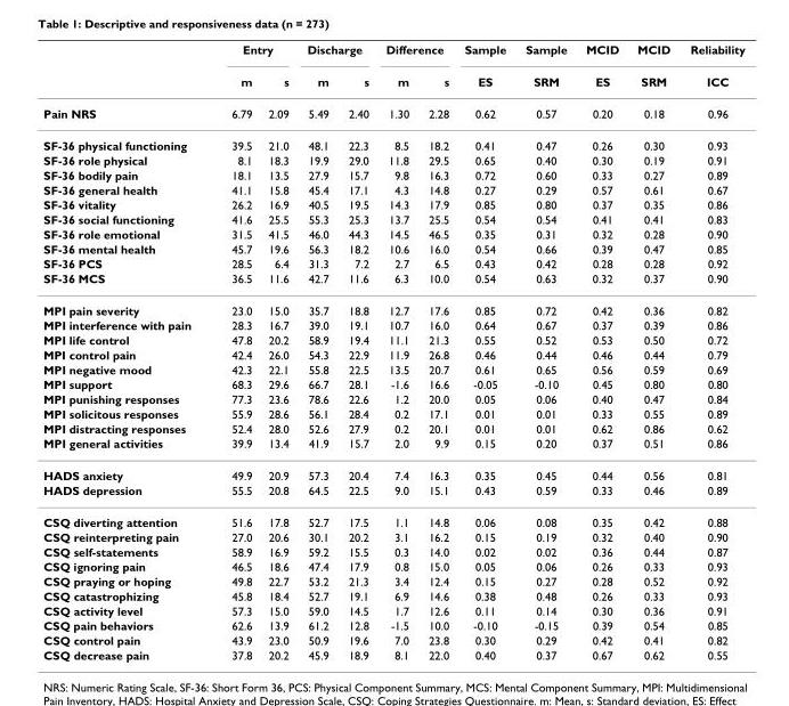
<table><thead><tr><td rowspan="2"></td><td colspan="2">Entry</td><td colspan="2">Discharge</td><td colspan="2">Difference</td><td rowspan="2">Sample ES</td><td rowspan="2">Sample SRM</td><td rowspan="2">MCID ES</td><td rowspan="2">MCID SRM</td><td rowspan="2">Reliability ICC</td></tr><tr><td>m</td><td>s</td><td>m</td><td>s</td><td>m</td><td>s</td></tr></thead><tbody><tr><td>Pain NRS</td><td>6.79</td><td>2.09</td><td>5.49</td><td>2.40</td><td>1.30</td><td>2.28</td><td>0.62</td><td>0.57</td><td>0.20</td><td>0.18</td><td>0.96</td></tr><tr><td>SF-36 physical functioning</td><td>39.5</td><td>21.0</td><td>48.1</td><td>22.3</td><td>8.5</td><td>18.2</td><td>0.41</td><td>0.47</td><td>0.26</td><td>0.30</td><td>0.93</td></tr><tr><td>SF-36 role physical</td><td>8.1</td><td>18.3</td><td>19.9</td><td>29.0</td><td>11.8</td><td>29.5</td><td>0.65</td><td>0.40</td><td>0.30</td><td>0.19</td><td>0.91</td></tr><tr><td>SF-36 bodily pain</td><td>18.1</td><td>13.5</td><td>27.9</td><td>15.7</td><td>9.8</td><td>16.3</td><td>0.72</td><td>0.60</td><td>0.33</td><td>0.27</td><td>0.89</td></tr><tr><td>SF-36 general health</td><td>41.1</td><td>15.8</td><td>45.4</td><td>17.1</td><td>4.3</td><td>14.8</td><td>0.27</td><td>0.29</td><td>0.57</td><td>0.61</td><td>0.67</td></tr><tr><td>SF-36 vitality</td><td>26.2</td><td>16.9</td><td>40.5</td><td>19.5</td><td>14.3</td><td>17.9</td><td>0.85</td><td>0.80</td><td>0.37</td><td>0.35</td><td>0.86</td></tr><tr><td>SF-36 social functioning</td><td>41.6</td><td>25.5</td><td>55.3</td><td>25.3</td><td>13.7</td><td>25.5</td><td>0.54</td><td>0.54</td><td>0.41</td><td>0.41</td><td>0.83</td></tr><tr><td>SF-36 role emotional</td><td>31.5</td><td>41.5</td><td>46.0</td><td>44.3</td><td>14.5</td><td>46.5</td><td>0.35</td><td>0.31</td><td>0.32</td><td>0.28</td><td>0.90</td></tr><tr><td>SF-36 mental health</td><td>45.7</td><td>19.6</td><td>56.3</td><td>18.2</td><td>10.6</td><td>16.0</td><td>0.54</td><td>0.66</td><td>0.39</td><td>0.47</td><td>0.85</td></tr><tr><td>SF-36 PCS</td><td>28.5</td><td>6.4</td><td>31.3</td><td>7.2</td><td>2.7</td><td>6.5</td><td>0.43</td><td>0.42</td><td>0.28</td><td>0.28</td><td>0.92</td></tr><tr><td>SF-36 MCS</td><td>36.5</td><td>11.6</td><td>42.7</td><td>11.6</td><td>6.3</td><td>10.0</td><td>0.54</td><td>0.63</td><td>0.32</td><td>0.37</td><td>0.90</td></tr><tr><td>MPI pain severity</td><td>23.0</td><td>15.0</td><td>35.7</td><td>18.8</td><td>12.7</td><td>17.6</td><td>0.85</td><td>0.72</td><td>0.42</td><td>0.36</td><td>0.82</td></tr><tr><td>MPI interference with pain</td><td>28.3</td><td>16.7</td><td>39.0</td><td>19.1</td><td>10.7</td><td>16.0</td><td>0.64</td><td>0.67</td><td>0.37</td><td>0.39</td><td>0.86</td></tr><tr><td>MPI life control</td><td>47.8</td><td>20.2</td><td>58.9</td><td>19.4</td><td>11.1</td><td>21.3</td><td>0.55</td><td>0.52</td><td>0.53</td><td>0.50</td><td>0.72</td></tr><tr><td>MPI control pain</td><td>42.4</td><td>26.0</td><td>54.3</td><td>22.9</td><td>11.9</td><td>26.8</td><td>0.46</td><td>0.44</td><td>0.46</td><td>0.44</td><td>0.79</td></tr><tr><td>MPI negative mood</td><td>42.3</td><td>22.1</td><td>55.8</td><td>22.5</td><td>13.5</td><td>20.7</td><td>0.61</td><td>0.65</td><td>0.56</td><td>0.59</td><td>0.69</td></tr><tr><td>MPI support</td><td>68.3</td><td>29.6</td><td>66.7</td><td>28.1</td><td>-1.6</td><td>16.6</td><td>-0.05</td><td>-0.10</td><td>0.45</td><td>0.80</td><td>0.80</td></tr><tr><td>MPI punishing responses</td><td>77.3</td><td>23.6</td><td>78.6</td><td>22.6</td><td>1.2</td><td>20.0</td><td>0.05</td><td>0.06</td><td>0.40</td><td>0.47</td><td>0.84</td></tr><tr><td>MPI solicitous responses</td><td>55.9</td><td>28.6</td><td>56.1</td><td>28.4</td><td>0.2</td><td>17.1</td><td>0.01</td><td>0.01</td><td>0.33</td><td>0.55</td><td>0.89</td></tr><tr><td>MPI distracting responses</td><td>52.4</td><td>28.0</td><td>52.6</td><td>27.9</td><td>0.2</td><td>20.1</td><td>0.01</td><td>0.01</td><td>0.62</td><td>0.86</td><td>0.62</td></tr><tr><td>MPI general activities</td><td>39.9</td><td>13.4</td><td>41.9</td><td>15.7</td><td>2.0</td><td>9.9</td><td>0.15</td><td>0.20</td><td>0.37</td><td>0.51</td><td>0.86</td></tr><tr><td>HADS anxiety</td><td>49.9</td><td>20.9</td><td>57.3</td><td>20.4</td><td>7.4</td><td>16.3</td><td>0.35</td><td>0.45</td><td>0.44</td><td>0.56</td><td>0.81</td></tr><tr><td>HADS depression</td><td>55.5</td><td>20.8</td><td>64.5</td><td>22.5</td><td>9.0</td><td>15.1</td><td>0.43</td><td>0.59</td><td>0.33</td><td>0.46</td><td>0.89</td></tr><tr><td>CSQ diverting attention</td><td>51.6</td><td>17.8</td><td>52.7</td><td>17.5</td><td>1.1</td><td>14.8</td><td>0.06</td><td>0.08</td><td>0.35</td><td>0.42</td><td>0.88</td></tr><tr><td>CSQ reinterpreting pain</td><td>27.0</td><td>20.6</td><td>30.1</td><td>20.2</td><td>3.1</td><td>16.2</td><td>0.15</td><td>0.19</td><td>0.32</td><td>0.40</td><td>0.90</td></tr><tr><td>CSQ self-statements</td><td>58.9</td><td>16.9</td><td>59.2</td><td>15.5</td><td>0.3</td><td>14.0</td><td>0.02</td><td>0.02</td><td>0.36</td><td>0.44</td><td>0.87</td></tr><tr><td>CSQ ignoring pain</td><td>46.5</td><td>18.6</td><td>47.4</td><td>17.9</td><td>0.8</td><td>15.0</td><td>0.05</td><td>0.06</td><td>0.26</td><td>0.33</td><td>0.93</td></tr><tr><td>CSQ praying or hoping</td><td>49.8</td><td>22.7</td><td>53.2</td><td>21.3</td><td>3.4</td><td>12.4</td><td>0.15</td><td>0.27</td><td>0.28</td><td>0.52</td><td>0.92</td></tr><tr><td>CSQ catastrophizing</td><td>45.8</td><td>18.4</td><td>52.7</td><td>19.1</td><td>6.9</td><td>14.6</td><td>0.38</td><td>0.48</td><td>0.26</td><td>0.33</td><td>0.93</td></tr><tr><td>CSQ activity level</td><td>57.3</td><td>15.0</td><td>59.0</td><td>14.5</td><td>1.7</td><td>12.6</td><td>0.11</td><td>0.14</td><td>0.30</td><td>0.36</td><td>0.91</td></tr><tr><td>CSQ pain behaviors</td><td>62.6</td><td>13.9</td><td>61.2</td><td>12.8</td><td>-1.5</td><td>10.0</td><td>-0.10</td><td>-0.15</td><td>0.39</td><td>0.54</td><td>0.85</td></tr><tr><td>CSQ control pain</td><td>43.9</td><td>23.0</td><td>50.9</td><td>19.6</td><td>7.0</td><td>23.8</td><td>0.30</td><td>0.29</td><td>0.42</td><td>0.41</td><td>0.82</td></tr><tr><td>CSQ decrease pain</td><td>37.8</td><td>20.2</td><td>45.9</td><td>18.9</td><td>8.1</td><td>22.0</td><td>0.40</td><td>0.37</td><td>0.67</td><td>0.62</td><td>0.55</td></tr></tbody></table>